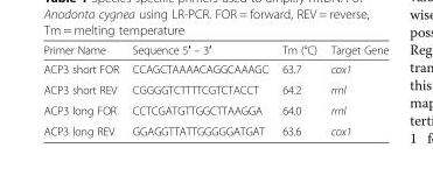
<table><thead><tr><td>Primer Name</td><td>Sequence 5′ – 3′</td><td>Tm (°C)</td><td>Target Gene</td></tr></thead><tbody><tr><td>ACP3 short FOR</td><td>CCAGCTAAAACAGGCAAAGC</td><td>63.7</td><td>cox1</td></tr><tr><td>ACP3 short REV</td><td>CGGGGTCTTTTCGTCTACCT</td><td>64.2</td><td>rrnl</td></tr><tr><td>ACP3 long FOR</td><td>CCTCGATGTTGGCTTAAGGA</td><td>64.0</td><td>rrnl</td></tr><tr><td>ACP3 long REV</td><td>GGAGGTTATTGGGGGATGAT</td><td>63.6</td><td>cox1</td></tr></tbody></table>